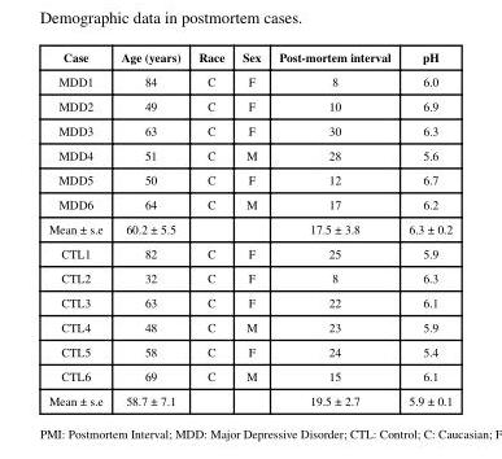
<table><thead><tr><td>Case</td><td>Age (years)</td><td>Race</td><td>Sex</td><td>Post-mortem interval</td><td>pH</td></tr></thead><tbody><tr><td>MDD1</td><td>84</td><td>C</td><td>F</td><td>8</td><td>6.0</td></tr><tr><td>MDD2</td><td>49</td><td>C</td><td>F</td><td>10</td><td>6.9</td></tr><tr><td>MDD3</td><td>63</td><td>C</td><td>F</td><td>30</td><td>6.3</td></tr><tr><td>MDD4</td><td>51</td><td>C</td><td>M</td><td>28</td><td>5.6</td></tr><tr><td>MDD5</td><td>50</td><td>C</td><td>F</td><td>12</td><td>6.7</td></tr><tr><td>MDD6</td><td>64</td><td>C</td><td>M</td><td>17</td><td>6.2</td></tr><tr><td>Mean ± s.e</td><td>60.2 ± 5.5</td><td></td><td></td><td>17.5 ± 3.8</td><td>6.3 ± 0.2</td></tr><tr><td>CTL1</td><td>82</td><td>C</td><td>F</td><td>25</td><td>5.9</td></tr><tr><td>CTL2</td><td>32</td><td>C</td><td>F</td><td>8</td><td>6.3</td></tr><tr><td>CTL3</td><td>63</td><td>C</td><td>F</td><td>22</td><td>6.1</td></tr><tr><td>CTL4</td><td>48</td><td>C</td><td>M</td><td>23</td><td>5.9</td></tr><tr><td>CTL5</td><td>58</td><td>C</td><td>F</td><td>24</td><td>5.4</td></tr><tr><td>CTL6</td><td>69</td><td>C</td><td>M</td><td>15</td><td>6.1</td></tr><tr><td>Mean ± s.e</td><td>58.7 ± 7.1</td><td></td><td></td><td>19.5 ± 2.7</td><td>5.9 ± 0.1</td></tr></tbody></table>